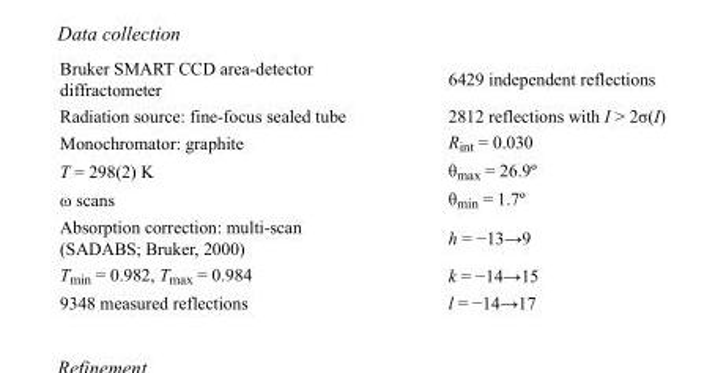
<table><tbody><tr><td>Bruker SMART CCD area-detector diffractometer</td><td>6429 independent reflections</td></tr><tr><td>Radiation source: fine-focus sealed tube</td><td>2812 reflections with I &gt; 2σ(I)</td></tr><tr><td>Monochromator: graphite</td><td>R<sub>int</sub> = 0.030</td></tr><tr><td>T = 298(2) K</td><td>θ<sub>max</sub> = 26.9º</td></tr><tr><td>ω scans</td><td>θ<sub>min</sub> = 1.7º</td></tr><tr><td>Absorption correction: multi-scan (SADABS; Bruker, 2000)</td><td>h = −13→9</td></tr><tr><td>T<sub>min</sub> = 0.982, T<sub>max</sub> = 0.984</td><td>k = −14→15</td></tr><tr><td>9348 measured reflections</td><td>l = −14→17</td></tr></tbody></table>